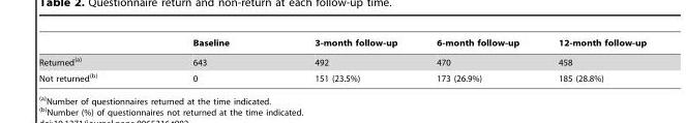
<table><thead><tr><td></td><td>Baseline</td><td>3-month follow-up</td><td>6-month follow-up</td><td>12-month follow-up</td></tr></thead><tbody><tr><td>Returned(a)</td><td>643</td><td>492</td><td>470</td><td>458</td></tr><tr><td>Not returned(b)</td><td>0</td><td>151 (23.5%)</td><td>173 (26.9%)</td><td>185 (28.8%)</td></tr></tbody></table>